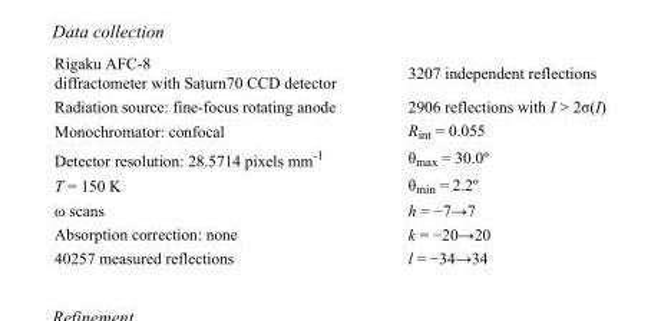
<table><tbody><tr><td>Rigaku AFC-8 diffractometer with Saturn70 CCD detector</td><td>3207 independent reflections</td></tr><tr><td>Radiation source: fine-focus rotating anode</td><td>2906 reflections with I &gt; 2σ(I)</td></tr><tr><td>Monochromator: confocal</td><td>R<sub>int</sub> = 0.055</td></tr><tr><td>Detector resolution: 28.5714 pixels mm<sup>-1</sup></td><td>θ<sub>max</sub> = 30.0º</td></tr><tr><td>T = 150 K</td><td>θ<sub>min</sub> = 2.2º</td></tr><tr><td>ω scans</td><td>h = −7→7</td></tr><tr><td>Absorption correction: none</td><td>k = −20→20</td></tr><tr><td>40257 measured reflections</td><td>l = −34→34</td></tr></tbody></table>